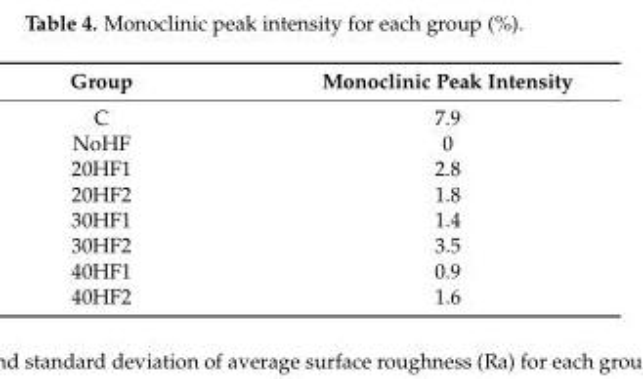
<table><thead><tr><td>Group</td><td>Monoclinic Peak Intensity</td></tr></thead><tbody><tr><td>C</td><td>7.9</td></tr><tr><td>NoHF</td><td>0</td></tr><tr><td>20HF1</td><td>2.8</td></tr><tr><td>20HF2</td><td>1.8</td></tr><tr><td>30HF1</td><td>1.4</td></tr><tr><td>30HF2</td><td>3.5</td></tr><tr><td>40HF1</td><td>0.9</td></tr><tr><td>40HF2</td><td>1.6</td></tr></tbody></table>